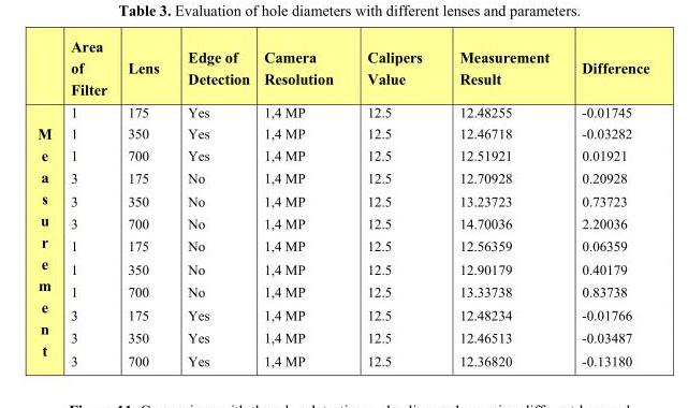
<table><thead><tr><td></td><td>Area of Filter</td><td>Lens</td><td>Edge of Detection</td><td>Camera Resolution</td><td>Calipers Value</td><td>Measurement Result</td><td>Difference</td></tr></thead><tbody><tr><td rowspan="12">M e a s u r e m e n t</td><td>1</td><td>175</td><td>Yes</td><td>1,4 MP</td><td>12.5</td><td>12.48255</td><td>-0.01745</td></tr><tr><td>1</td><td>350</td><td>Yes</td><td>1,4 MP</td><td>12.5</td><td>12.46718</td><td>-0.03282</td></tr><tr><td>1</td><td>700</td><td>Yes</td><td>1,4 MP</td><td>12.5</td><td>12.51921</td><td>0.01921</td></tr><tr><td>3</td><td>175</td><td>No</td><td>1,4 MP</td><td>12.5</td><td>12.70928</td><td>0.20928</td></tr><tr><td>3</td><td>350</td><td>No</td><td>1,4 MP</td><td>12.5</td><td>13.23723</td><td>0.73723</td></tr><tr><td>3</td><td>700</td><td>No</td><td>1,4 MP</td><td>12.5</td><td>14.70036</td><td>2.20036</td></tr><tr><td>1</td><td>175</td><td>No</td><td>1,4 MP</td><td>12.5</td><td>12.56359</td><td>0.06359</td></tr><tr><td>1</td><td>350</td><td>No</td><td>1,4 MP</td><td>12.5</td><td>12.90179</td><td>0.40179</td></tr><tr><td>1</td><td>700</td><td>No</td><td>1,4 MP</td><td>12.5</td><td>13.33738</td><td>0.83738</td></tr><tr><td>3</td><td>175</td><td>Yes</td><td>1,4 MP</td><td>12.5</td><td>12.48234</td><td>-0.01766</td></tr><tr><td>3</td><td>350</td><td>Yes</td><td>1,4 MP</td><td>12.5</td><td>12.46513</td><td>-0.03487</td></tr><tr><td>3</td><td>700</td><td>Yes</td><td>1,4 MP</td><td>12.5</td><td>12.36820</td><td>-0.13180</td></tr></tbody></table>